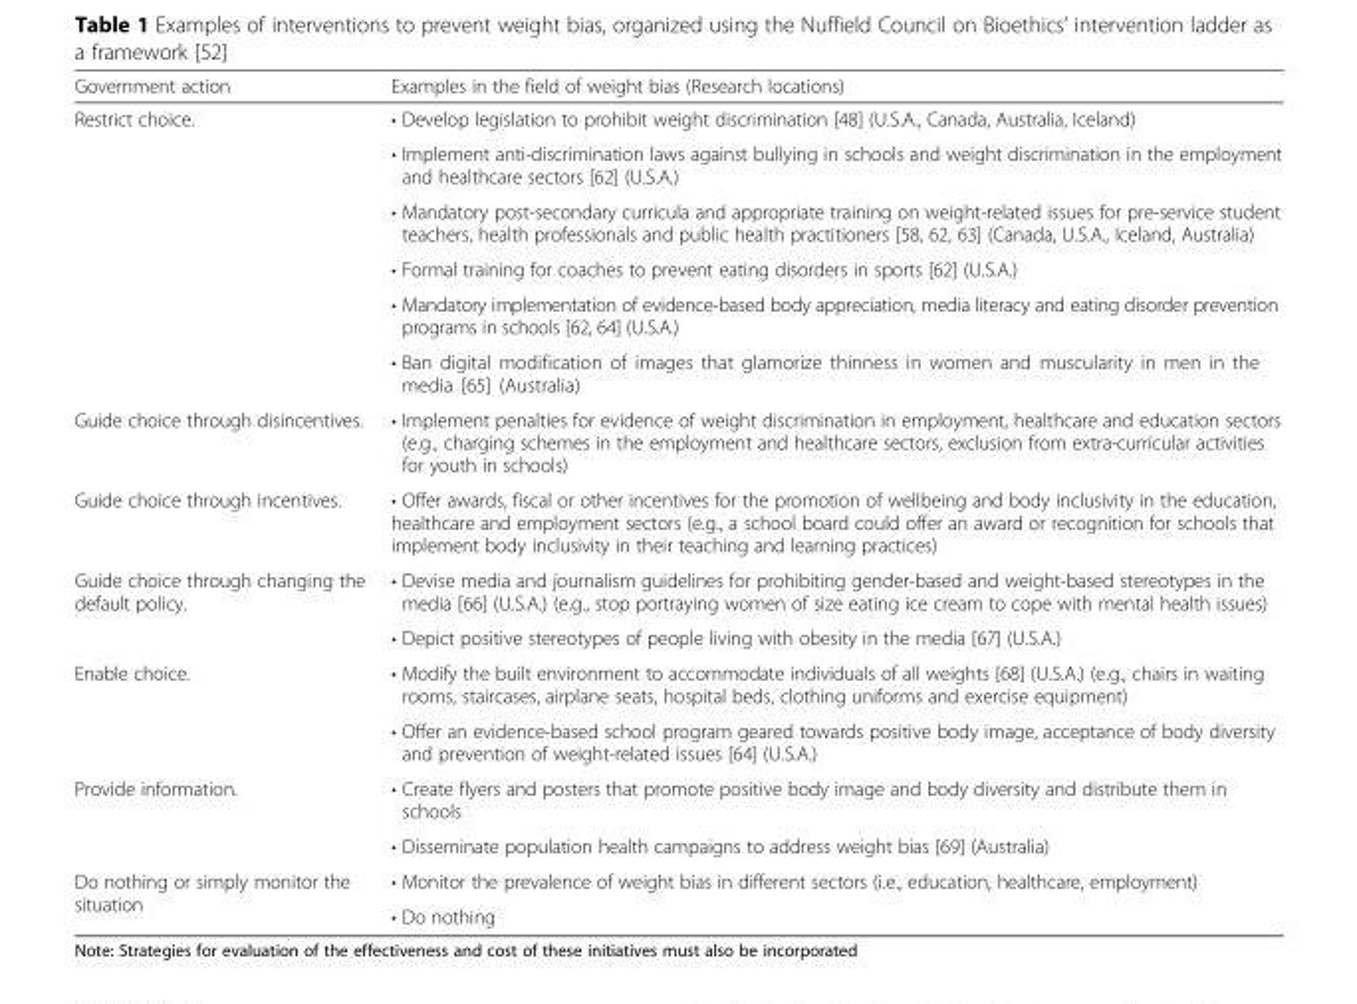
<table><thead><tr><td>Government action</td><td>Examples in the field of weight bias (Research locations)</td></tr></thead><tbody><tr><td rowspan="6">Restrict choice.</td><td>• Develop legislation to prohibit weight discrimination [48] (U.S.A., Canada, Australia, Iceland)</td></tr><tr><td>• Implement anti-discrimination laws against bullying in schools and weight discrimination in the employment and healthcare sectors [62] (U.S.A.)</td></tr><tr><td>• Mandatory post-secondary curricula and appropriate training on weight-related issues for pre-service student teachers, health professionals and public health practitioners [58, 62, 63] (Canada, U.S.A., Iceland, Australia)</td></tr><tr><td>• Formal training for coaches to prevent eating disorders in sports [62] (U.S.A.)</td></tr><tr><td>• Mandatory implementation of evidence-based body appreciation, media literacy and eating disorder prevention programs in schools [62, 64] (U.S.A.)</td></tr><tr><td>• Ban digital modification of images that glamorize thinness in women and muscularity in men in the media [65] (Australia)</td></tr><tr><td>Guide choice through disincentives.</td><td>• Implement penalties for evidence of weight discrimination in employment, healthcare and education sectors (e.g., charging schemes in the employment and healthcare sectors, exclusion from extra-curricular activities for youth in schools)</td></tr><tr><td>Guide choice through incentives.</td><td>• Offer awards, fiscal or other incentives for the promotion of wellbeing and body inclusivity in the education, healthcare and employment sectors (e.g., a school board could offer an award or recognition for schools that implement body inclusivity in their teaching and learning practices)</td></tr><tr><td rowspan="2">Guide choice through changing the default policy.</td><td>• Devise media and journalism guidelines for prohibiting gender-based and weight-based stereotypes in the media [66] (U.S.A.) (e.g., stop portraying women of size eating ice cream to cope with mental health issues)</td></tr><tr><td>• Depict positive stereotypes of people living with obesity in the media [67] (U.S.A.)</td></tr><tr><td rowspan="2">Enable choice.</td><td>• Modify the built environment to accommodate individuals of all weights [68] (U.S.A.) (e.g., chairs in waiting rooms, staircases, airplane seats, hospital beds, clothing uniforms and exercise equipment)</td></tr><tr><td>• Offer an evidence-based school program geared towards positive body image, acceptance of body diversity and prevention of weight-related issues [64] (U.S.A.)</td></tr><tr><td rowspan="2">Provide information.</td><td>• Create flyers and posters that promote positive body image and body diversity and distribute them in schools</td></tr><tr><td>• Disseminate population health campaigns to address weight bias [69] (Australia)</td></tr><tr><td rowspan="2">Do nothing or simply monitor the situation</td><td>• Monitor the prevalence of weight bias in different sectors (i.e., education, healthcare, employment)</td></tr><tr><td>• Do nothing</td></tr></tbody></table>